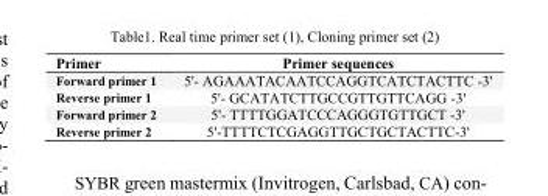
<table><thead><tr><td>Primer</td><td>Primer sequences</td></tr></thead><tbody><tr><td>Forward primer 1</td><td>5&#x27;- AGAAATACAATCCAGGTCATCTACTTC -3&#x27;</td></tr><tr><td>Reverse primer 1</td><td>5&#x27;- GCATATCTTGCCGTTGTTCAGG -3&#x27;</td></tr><tr><td>Forward primer 2</td><td>5&#x27;- TTTTGGATCCCAGGGTGTTGCT -3&#x27;</td></tr><tr><td>Reverse primer 2</td><td>5&#x27;-TTTTCTCGAGGTTGCTGCTACTTC-3&#x27;</td></tr></tbody></table>